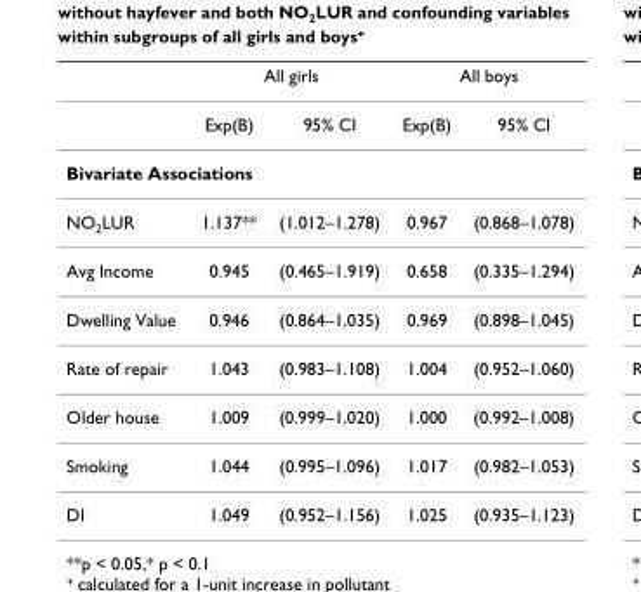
<table><thead><tr><td rowspan="2"></td><td colspan="2">All girls</td><td colspan="2">All boys</td></tr><tr><td>Exp(B)</td><td>95% CI</td><td>Exp(B)</td><td>95% CI</td></tr></thead><tbody><tr><td colspan="5">Bivariate Associations</td></tr><tr><td>NO<sub>2</sub>LUR</td><td>1.137**</td><td>(1.012–1.278)</td><td>0.967</td><td>(0.868–1.078)</td></tr><tr><td>Avg Income</td><td>0.945</td><td>(0.465–1.919)</td><td>0.658</td><td>(0.335–1.294)</td></tr><tr><td>Dwelling Value</td><td>0.946</td><td>(0.864–1.035)</td><td>0.969</td><td>(0.898–1.045)</td></tr><tr><td>Rate of repair</td><td>1.043</td><td>(0.983–1.108)</td><td>1.004</td><td>(0.952–1.060)</td></tr><tr><td>Older house</td><td>1.009</td><td>(0.999–1.020)</td><td>1.000</td><td>(0.992–1.008)</td></tr><tr><td>Smoking</td><td>1.044</td><td>(0.995–1.096)</td><td>1.017</td><td>(0.982–1.053)</td></tr><tr><td>DI</td><td>1.049</td><td>(0.952–1.156)</td><td>1.025</td><td>(0.935–1.123)</td></tr></tbody></table>